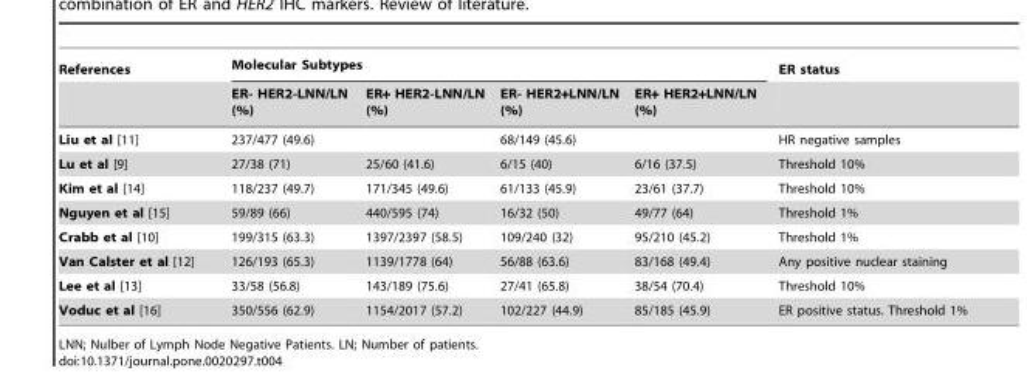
<table><thead><tr><td rowspan="2">References</td><td colspan="4">Molecular Subtypes</td><td rowspan="2">ER status</td></tr><tr><td>ER- HER2-LNN/LN (%)</td><td>ER+ HER2-LNN/LN (%)</td><td>ER- HER2+LNN/LN (%)</td><td>ER+ HER2+LNN/LN (%)</td></tr></thead><tbody><tr><td>Liu et al [11]</td><td>237/477 (49.6)</td><td></td><td>68/149 (45.6)</td><td></td><td>HR negative samples</td></tr><tr><td>Lu et al [9]</td><td>27/38 (71)</td><td>25/60 (41.6)</td><td>6/15 (40)</td><td>6/16 (37.5)</td><td>Threshold 10%</td></tr><tr><td>Kim et al [14]</td><td>118/237 (49.7)</td><td>171/345 (49.6)</td><td>61/133 (45.9)</td><td>23/61 (37.7)</td><td>Threshold 10%</td></tr><tr><td>Nguyen et al [15]</td><td>59/89 (66)</td><td>440/595 (74)</td><td>16/32 (50)</td><td>49/77 (64)</td><td>Threshold 1%</td></tr><tr><td>Crabb et al [10]</td><td>199/315 (63.3)</td><td>1397/2397 (58.5)</td><td>109/240 (32)</td><td>95/210 (45.2)</td><td>Threshold 1%</td></tr><tr><td>Van Calster et al [12]</td><td>126/193 (65.3)</td><td>1139/1778 (64)</td><td>56/88 (63.6)</td><td>83/168 (49.4)</td><td>Any positive nuclear staining</td></tr><tr><td>Lee et al [13]</td><td>33/58 (56.8)</td><td>143/189 (75.6)</td><td>27/41 (65.8)</td><td>38/54 (70.4)</td><td>Threshold 10%</td></tr><tr><td>Voduc et al [16]</td><td>350/556 (62.9)</td><td>1154/2017 (57.2)</td><td>102/227 (44.9)</td><td>85/185 (45.9)</td><td>ER positive status. Threshold 1%</td></tr></tbody></table>